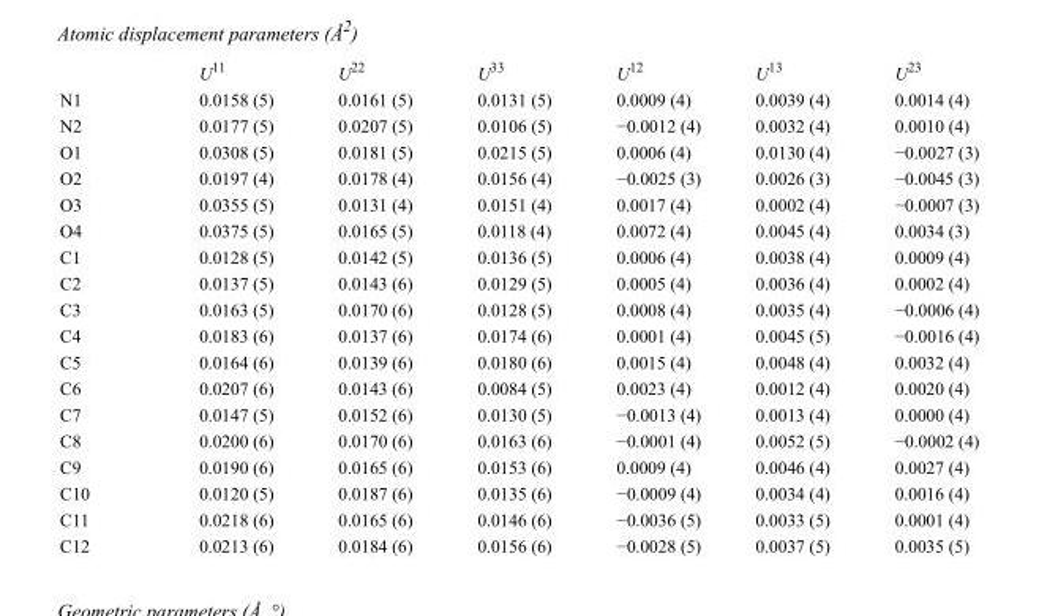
<table><thead><tr><td></td><td>U<sup>11</sup></td><td>U<sup>22</sup></td><td>U<sup>33</sup></td><td>U<sup>12</sup></td><td>U<sup>13</sup></td><td>U<sup>23</sup></td></tr></thead><tbody><tr><td>N1</td><td>0.0158 (5)</td><td>0.0161 (5)</td><td>0.0131 (5)</td><td>0.0009 (4)</td><td>0.0039 (4)</td><td>0.0014 (4)</td></tr><tr><td>N2</td><td>0.0177 (5)</td><td>0.0207 (5)</td><td>0.0106 (5)</td><td>−0.0012 (4)</td><td>0.0032 (4)</td><td>0.0010 (4)</td></tr><tr><td>O1</td><td>0.0308 (5)</td><td>0.0181 (5)</td><td>0.0215 (5)</td><td>0.0006 (4)</td><td>0.0130 (4)</td><td>−0.0027 (3)</td></tr><tr><td>O2</td><td>0.0197 (4)</td><td>0.0178 (4)</td><td>0.0156 (4)</td><td>−0.0025 (3)</td><td>0.0026 (3)</td><td>−0.0045 (3)</td></tr><tr><td>O3</td><td>0.0355 (5)</td><td>0.0131 (4)</td><td>0.0151 (4)</td><td>0.0017 (4)</td><td>0.0002 (4)</td><td>−0.0007 (3)</td></tr><tr><td>O4</td><td>0.0375 (5)</td><td>0.0165 (5)</td><td>0.0118 (4)</td><td>0.0072 (4)</td><td>0.0045 (4)</td><td>0.0034 (3)</td></tr><tr><td>C1</td><td>0.0128 (5)</td><td>0.0142 (5)</td><td>0.0136 (5)</td><td>0.0006 (4)</td><td>0.0038 (4)</td><td>0.0009 (4)</td></tr><tr><td>C2</td><td>0.0137 (5)</td><td>0.0143 (6)</td><td>0.0129 (5)</td><td>0.0005 (4)</td><td>0.0036 (4)</td><td>0.0002 (4)</td></tr><tr><td>C3</td><td>0.0163 (5)</td><td>0.0170 (6)</td><td>0.0128 (5)</td><td>0.0008 (4)</td><td>0.0035 (4)</td><td>−0.0006 (4)</td></tr><tr><td>C4</td><td>0.0183 (6)</td><td>0.0137 (6)</td><td>0.0174 (6)</td><td>0.0001 (4)</td><td>0.0045 (5)</td><td>−0.0016 (4)</td></tr><tr><td>C5</td><td>0.0164 (6)</td><td>0.0139 (6)</td><td>0.0180 (6)</td><td>0.0015 (4)</td><td>0.0048 (4)</td><td>0.0032 (4)</td></tr><tr><td>C6</td><td>0.0207 (6)</td><td>0.0143 (6)</td><td>0.0084 (5)</td><td>0.0023 (4)</td><td>0.0012 (4)</td><td>0.0020 (4)</td></tr><tr><td>C7</td><td>0.0147 (5)</td><td>0.0152 (6)</td><td>0.0130 (5)</td><td>−0.0013 (4)</td><td>0.0013 (4)</td><td>0.0000 (4)</td></tr><tr><td>C8</td><td>0.0200 (6)</td><td>0.0170 (6)</td><td>0.0163 (6)</td><td>−0.0001 (4)</td><td>0.0052 (5)</td><td>−0.0002 (4)</td></tr><tr><td>C9</td><td>0.0190 (6)</td><td>0.0165 (6)</td><td>0.0153 (6)</td><td>0.0009 (4)</td><td>0.0046 (4)</td><td>0.0027 (4)</td></tr><tr><td>C10</td><td>0.0120 (5)</td><td>0.0187 (6)</td><td>0.0135 (6)</td><td>−0.0009 (4)</td><td>0.0034 (4)</td><td>0.0016 (4)</td></tr><tr><td>C11</td><td>0.0218 (6)</td><td>0.0165 (6)</td><td>0.0146 (6)</td><td>−0.0036 (5)</td><td>0.0033 (5)</td><td>0.0001 (4)</td></tr><tr><td>C12</td><td>0.0213 (6)</td><td>0.0184 (6)</td><td>0.0156 (6)</td><td>−0.0028 (5)</td><td>0.0037 (5)</td><td>0.0035 (5)</td></tr></tbody></table>